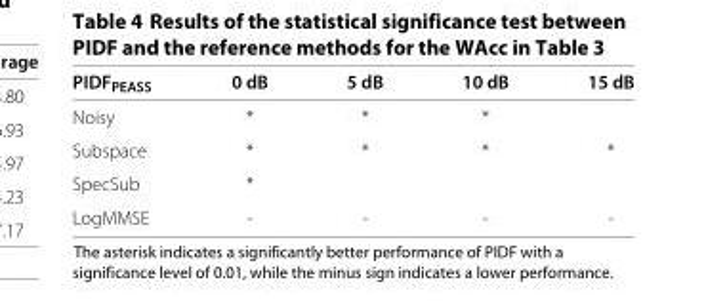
<table><thead><tr><td>PIDF<sub>PEASS</sub></td><td>0 dB</td><td>5 dB</td><td>10 dB</td><td>15 dB</td></tr></thead><tbody><tr><td>Noisy</td><td>*</td><td>*</td><td>*</td><td></td></tr><tr><td>Subspace</td><td>*</td><td>*</td><td>*</td><td>*</td></tr><tr><td>SpecSub</td><td>*</td><td></td><td></td><td></td></tr><tr><td>LogMMSE</td><td>-</td><td>-</td><td>-</td><td>-</td></tr></tbody></table>